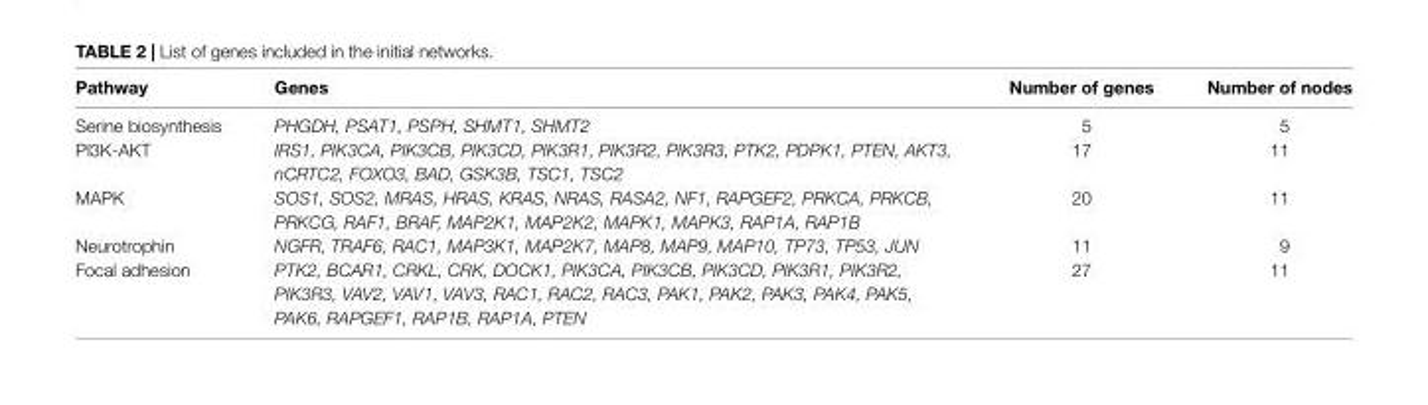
<table><thead><tr><td>Pathway</td><td>Genes</td><td>Number of genes</td><td>Number of nodes</td></tr></thead><tbody><tr><td>Serine biosynthesis</td><td>PHGDH, PSAT1, PSPH, SHMT1, SHMT2</td><td>5</td><td>5</td></tr><tr><td>PI3K-AKT</td><td>IRS1, PIK3CA, PIK3CB, PIK3CD, PIK3R1, PIK3R2, PIK3R3, PTK2, PDPK1, PTEN, AKT3, nCRTC2, FOXO3, BAD, GSK3B, TSC1, TSC2</td><td>17</td><td>11</td></tr><tr><td>MAPK</td><td>SOS1, SOS2, MRAS, HRAS, KRAS, NRAS, RASA2, NF1, RAPGEF2, PRKCA, PRKCB, PRKCG, RAF1, BRAF, MAP2K1, MAP2K2, MAPK1, MAPK3, RAP1A, RAP1B</td><td>20</td><td>11</td></tr><tr><td>Neurotrophin</td><td>NGFR, TRAF6, RAC1, MAP3K1, MAP2K7, MAP8, MAP9, MAP10, TP73, TP53, JUN</td><td>11</td><td>9</td></tr><tr><td>Focal adhesion</td><td>PTK2, BCAR1, CRKL, CRK, DOCK1, PIK3CA, PIK3CB, PIK3CD, PIK3R1, PIK3R2, PIK3R3, VAV2, VAV1, VAV3, RAC1, RAC2, RAC3, PAK1, PAK2, PAK3, PAK4, PAK5, PAK6, RAPGEF1, RAP1B, RAP1A, PTEN</td><td>27</td><td>11</td></tr></tbody></table>